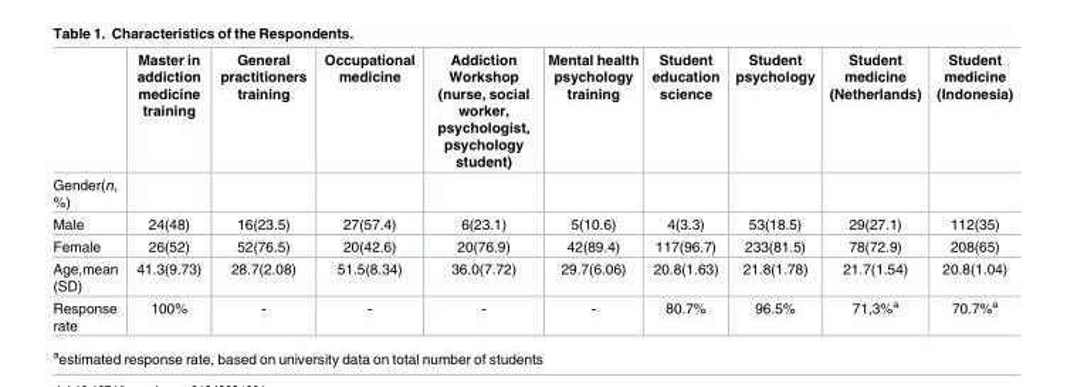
<table><thead><tr><td></td><td>Master in addiction medicine training</td><td>General practitioners training</td><td>Occupational medicine</td><td>Addiction Workshop (nurse, social worker, psychologist, psychology student)</td><td>Mental health psychology training</td><td>Student education science</td><td>Student psychology</td><td>Student medicine (Netherlands)</td><td>Student medicine (Indonesia)</td></tr></thead><tbody><tr><td colspan="10">Gender(n, %)</td></tr><tr><td>Male</td><td>24(48)</td><td>16(23.5)</td><td>27(57.4)</td><td>6(23.1)</td><td>5(10.6)</td><td>4(3.3)</td><td>53(18.5)</td><td>29(27.1)</td><td>112(35)</td></tr><tr><td>Female</td><td>26(52)</td><td>52(76.5)</td><td>20(42.6)</td><td>20(76.9)</td><td>42(89.4)</td><td>117(96.7)</td><td>233(81.5)</td><td>78(72.9)</td><td>208(65)</td></tr><tr><td>Age,mean (SD)</td><td>41.3(9.73)</td><td>28.7(2.08)</td><td>51.5(8.34)</td><td>36.0(7.72)</td><td>29.7(6.06)</td><td>20.8(1.63)</td><td>21.8(1.78)</td><td>21.7(1.54)</td><td>20.8(1.04)</td></tr><tr><td>Response rate</td><td>100%</td><td>-</td><td>-</td><td>-</td><td>-</td><td>80.7%</td><td>96.5%</td><td>71,3%<sup>a</sup></td><td>70.7%<sup>a</sup></td></tr></tbody></table>